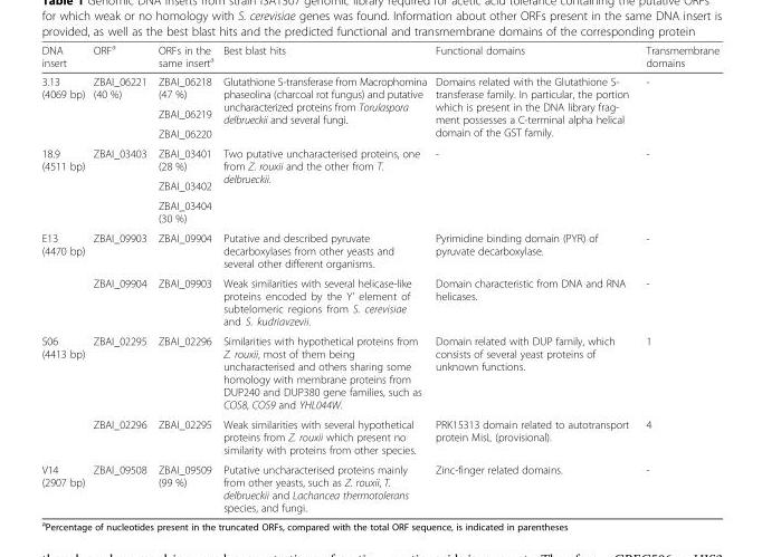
<table><thead><tr><td>DNA insert</td><td>ORF<sup>a</sup></td><td>ORFs in the same insert<sup>a</sup></td><td>Best blast hits</td><td>Functional domains</td><td>Transmembrane domains</td></tr></thead><tbody><tr><td rowspan="3">3.13 (4069 bp)</td><td rowspan="3">ZBAI_06221 (40 %)</td><td>ZBAI_06218 (47 %)</td><td rowspan="3">Glutathione S-transferase from Macrophomina phaseolina (charcoal rot fungus) and putative uncharacterized proteins from Torulaspora delbrueckii and several fungi.</td><td rowspan="3">Domains related with the Glutathione S- transferase family. In particular, the portion which is present in the DNA library frag- ment possesses a C-terminal alpha helical domain of the GST family.</td><td rowspan="3">-</td></tr><tr><td>ZBAI_06219</td></tr><tr><td>ZBAI_06220</td></tr><tr><td rowspan="3">18.9 (4511 bp)</td><td rowspan="3">ZBAI_03403</td><td>ZBAI_03401 (28 %)</td><td rowspan="3">Two putative uncharacterised proteins, one from Z. rouxii and the other from T. delbrueckii.</td><td rowspan="3">-</td><td rowspan="3">-</td></tr><tr><td>ZBAI_03402</td></tr><tr><td>ZBAI_03404 (30 %)</td></tr><tr><td rowspan="2">E13 (4470 bp)</td><td>ZBAI_09903</td><td>ZBAI_09904</td><td>Putative and described pyruvate decarboxylases from other yeasts and several other different organisms.</td><td>Pyrimidine binding domain (PYR) of pyruvate decarboxylase.</td><td>-</td></tr><tr><td>ZBAI_09904</td><td>ZBAI_09903</td><td>Weak similarities with several helicase-like proteins encoded by the Y’ element of subtelomeric regions from S. cerevisiae and S. kudriavzevii.</td><td>Domain characteristic from DNA and RNA helicases.</td><td>-</td></tr><tr><td rowspan="2">S06 (4413 bp)</td><td>ZBAI_02295</td><td>ZBAI_02296</td><td>Similarities with hypothetical proteins from Z. rouxii, most of them being uncharacterised and others sharing some homology with membrane proteins from DUP240 and DUP380 gene families, such as COS8, COS9 and YHL044W.</td><td>Domain related with DUP family, which consists of several yeast proteins of unknown functions.</td><td>1</td></tr><tr><td>ZBAI_02296</td><td>ZBAI_02295</td><td>Weak similarities with several hypothetical proteins from Z. rouxii which present no similarity with proteins from other species.</td><td>PRK15313 domain related to autotransport protein MisL (provisional).</td><td>4</td></tr><tr><td>V14 (2907 bp)</td><td>ZBAI_09508</td><td>ZBAI_09509 (99 %)</td><td>Putative uncharacterised proteins mainly from other yeasts, such as Z. rouxii, T. delbrueckii and Lachancea thermotolerans species, and fungi.</td><td>Zinc-finger related domains.</td><td>-</td></tr></tbody></table>